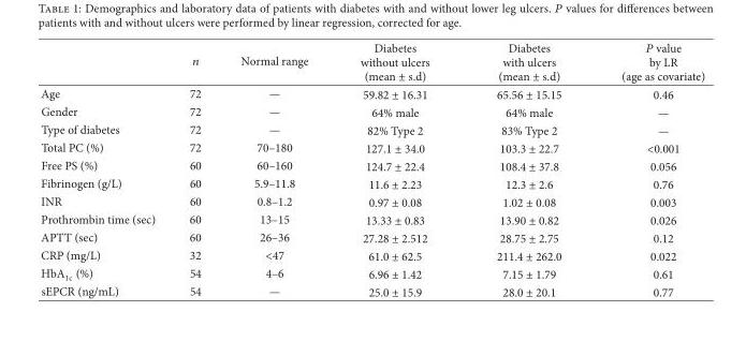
<table><thead><tr><td></td><td>𝑛𝑛</td><td>Normal range</td><td>Diabetes without ulcers (mean ± s.d)</td><td>Diabetes with ulcers (mean ± s.d)</td><td>𝑃𝑃 value by LR (age as covariate)</td></tr></thead><tbody><tr><td>Age</td><td>72</td><td>—</td><td>59.82 ± 16.31</td><td>65.56 ± 15.15</td><td>0.46</td></tr><tr><td>Gender</td><td>72</td><td>—</td><td>64% male</td><td>64% male</td><td>—</td></tr><tr><td>Type of diabetes</td><td>72</td><td>—</td><td>82% Type 2</td><td>83% Type 2</td><td>—</td></tr><tr><td>Total PC (%)</td><td>72</td><td>70–180</td><td>127.1 ± 34.0</td><td>103.3 ± 22.7</td><td>&lt;0.001</td></tr><tr><td>Free PS (%)</td><td>60</td><td>60–160</td><td>124.7 ± 22.4</td><td>108.4 ± 37.8</td><td>0.056</td></tr><tr><td>Fibrinogen (g/L)</td><td>60</td><td>5.9–11.8</td><td>11.6 ± 2.23</td><td>12.3 ± 2.6</td><td>0.76</td></tr><tr><td>INR</td><td>60</td><td>0.8–1.2</td><td>0.97 ± 0.08</td><td>1.02 ± 0.08</td><td>0.003</td></tr><tr><td>Prothrombin time (sec)</td><td>60</td><td>13–15</td><td>13.33 ± 0.83</td><td>13.90 ± 0.82</td><td>0.026</td></tr><tr><td>APTT (sec)</td><td>60</td><td>26–36</td><td>27.28 ± 2.512</td><td>28.75 ± 2.75</td><td>0.12</td></tr><tr><td>CRP (mg/L)</td><td>32</td><td>&lt;47</td><td>61.0 ± 62.5</td><td>211.4 ± 262.0</td><td>0.022</td></tr><tr><td>HbA<sub>1c</sub> (%)</td><td>54</td><td>4–6</td><td>6.96 ± 1.42</td><td>7.15 ± 1.79</td><td>0.61</td></tr><tr><td>sEPCR (ng/mL)</td><td>54</td><td>—</td><td>25.0 ± 15.9</td><td>28.0 ± 20.1</td><td>0.77</td></tr></tbody></table>